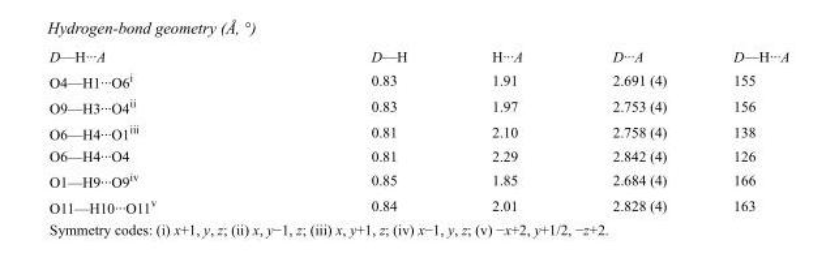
<table><tbody><tr><td>D—H···A</td><td>D—H</td><td>H···A</td><td>D···A</td><td>D—H···A</td></tr><tr><td>O4—H1···O6<sup>i</sup></td><td>0.83</td><td>1.91</td><td>2.691 (4)</td><td>155</td></tr><tr><td>O9—H3···O4<sup>ii</sup></td><td>0.83</td><td>1.97</td><td>2.753 (4)</td><td>156</td></tr><tr><td>O6—H4···O1<sup>iii</sup></td><td>0.81</td><td>2.10</td><td>2.758 (4)</td><td>138</td></tr><tr><td>O6—H4···O4</td><td>0.81</td><td>2.29</td><td>2.842 (4)</td><td>126</td></tr><tr><td>O1—H9···O9<sup>iv</sup></td><td>0.85</td><td>1.85</td><td>2.684 (4)</td><td>166</td></tr><tr><td>O11—H10···O11<sup>v</sup></td><td>0.84</td><td>2.01</td><td>2.828 (4)</td><td>163</td></tr></tbody></table>